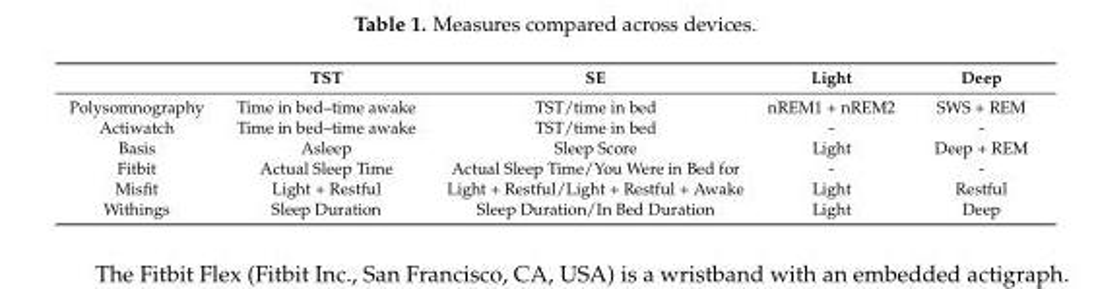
<table><thead><tr><td></td><td>TST</td><td>SE</td><td>Light</td><td>Deep</td></tr></thead><tbody><tr><td>Polysomnography</td><td>Time in bed–time awake</td><td>TST/time in bed</td><td>nREM1 + nREM2</td><td>SWS + REM</td></tr><tr><td>Actiwatch</td><td>Time in bed–time awake</td><td>TST/time in bed</td><td>-</td><td>-</td></tr><tr><td>Basis</td><td>Asleep</td><td>Sleep Score</td><td>Light</td><td>Deep + REM</td></tr><tr><td>Fitbit</td><td>Actual Sleep Time</td><td>Actual Sleep Time/You Were in Bed for</td><td>-</td><td>-</td></tr><tr><td>Misfit</td><td>Light + Restful</td><td>Light + Restful/Light + Restful + Awake</td><td>Light</td><td>Restful</td></tr><tr><td>Withings</td><td>Sleep Duration</td><td>Sleep Duration/In Bed Duration</td><td>Light</td><td>Deep</td></tr></tbody></table>